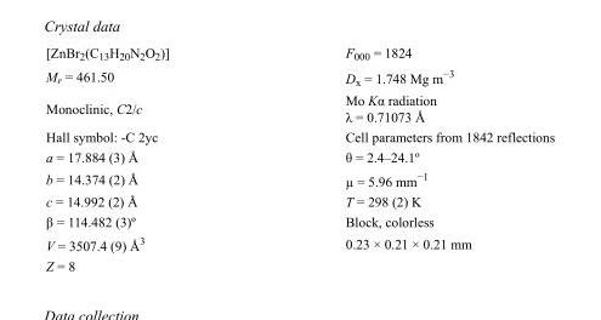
<table><tbody><tr><td>[ZnBr<sub>2</sub>(C<sub>13</sub>H<sub>20</sub>N<sub>2</sub>O<sub>2</sub>)]</td><td>F<sub>000</sub> = 1824</td></tr><tr><td>M<sub>r</sub> = 461.50</td><td>D<sub>x</sub> = 1.748 Mg m<sup>−3</sup></td></tr><tr><td>Monoclinic, C2/c</td><td>Mo Kα radiation λ = 0.71073 Å</td></tr><tr><td>Hall symbol: -C 2yc</td><td>Cell parameters from 1842 reflections</td></tr><tr><td>a = 17.884 (3) Å</td><td>θ = 2.4–24.1º</td></tr><tr><td>b = 14.374 (2) Å</td><td>µ = 5.96 mm<sup>−1</sup></td></tr><tr><td>c = 14.992 (2) Å</td><td>T = 298 (2) K</td></tr><tr><td>β = 114.482 (3)º</td><td>Block, colorless</td></tr><tr><td>V = 3507.4 (9) Å<sup>3</sup></td><td>0.23 × 0.21 × 0.21 mm</td></tr><tr><td>Z = 8</td><td></td></tr></tbody></table>